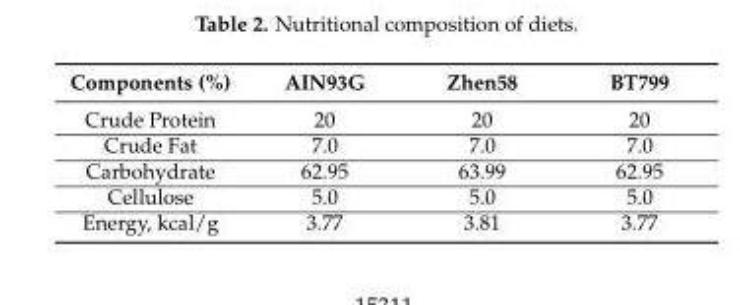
<table><thead><tr><td>Components (%)</td><td>AIN93G</td><td>Zhen58</td><td>BT799</td></tr></thead><tbody><tr><td>Crude Protein</td><td>20</td><td>20</td><td>20</td></tr><tr><td>Crude Fat</td><td>7.0</td><td>7.0</td><td>7.0</td></tr><tr><td>Carbohydrate</td><td>62.95</td><td>63.99</td><td>62.95</td></tr><tr><td>Cellulose</td><td>5.0</td><td>5.0</td><td>5.0</td></tr><tr><td>Energy, kcal/g</td><td>3.77</td><td>3.81</td><td>3.77</td></tr></tbody></table>